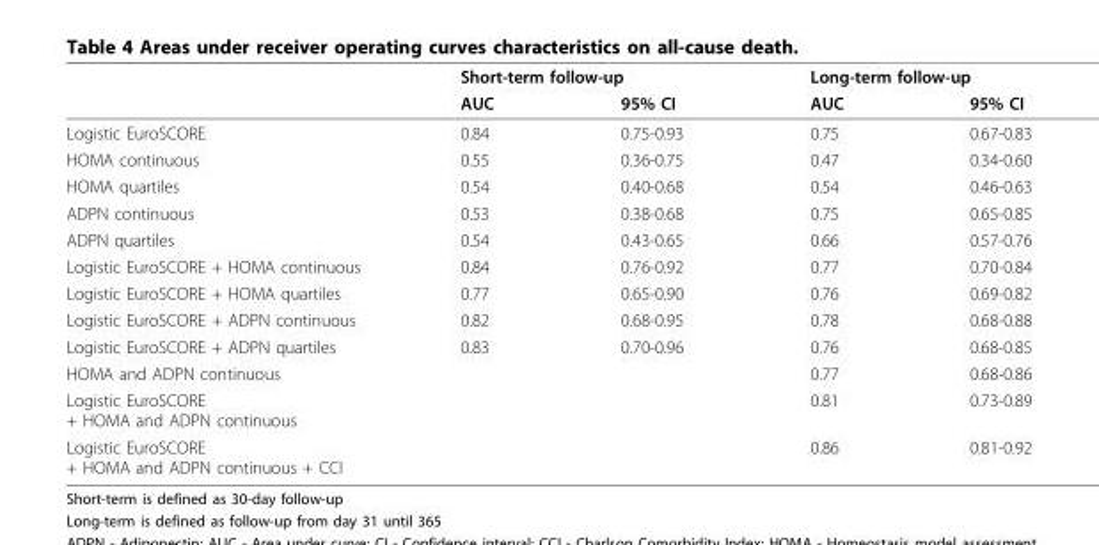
<table><thead><tr><td rowspan="2"></td><td colspan="2">Short-term follow-up</td><td colspan="2">Long-term follow-up</td></tr><tr><td>AUC</td><td>95% CI</td><td>AUC</td><td>95% CI</td></tr></thead><tbody><tr><td>Logistic EuroSCORE</td><td>0.84</td><td>0.75-0.93</td><td>0.75</td><td>0.67-0.83</td></tr><tr><td>HOMA continuous</td><td>0.55</td><td>0.36-0.75</td><td>0.47</td><td>0.34-0.60</td></tr><tr><td>HOMA quartiles</td><td>0.54</td><td>0.40-0.68</td><td>0.54</td><td>0.46-0.63</td></tr><tr><td>ADPN continuous</td><td>0.53</td><td>0.38-0.68</td><td>0.75</td><td>0.65-0.85</td></tr><tr><td>ADPN quartiles</td><td>0.54</td><td>0.43-0.65</td><td>0.66</td><td>0.57-0.76</td></tr><tr><td>Logistic EuroSCORE + HOMA continuous</td><td>0.84</td><td>0.76-0.92</td><td>0.77</td><td>0.70-0.84</td></tr><tr><td>Logistic EuroSCORE + HOMA quartiles</td><td>0.77</td><td>0.65-0.90</td><td>0.76</td><td>0.69-0.82</td></tr><tr><td>Logistic EuroSCORE + ADPN continuous</td><td>0.82</td><td>0.68-0.95</td><td>0.78</td><td>0.68-0.88</td></tr><tr><td>Logistic EuroSCORE + ADPN quartiles</td><td>0.83</td><td>0.70-0.96</td><td>0.76</td><td>0.68-0.85</td></tr><tr><td>HOMA and ADPN continuous</td><td></td><td></td><td>0.77</td><td>0.68-0.86</td></tr><tr><td>Logistic EuroSCORE + HOMA and ADPN continuous</td><td></td><td></td><td>0.81</td><td>0.73-0.89</td></tr><tr><td>Logistic EuroSCORE + HOMA and ADPN continuous + CCI</td><td></td><td></td><td>0.86</td><td>0.81-0.92</td></tr></tbody></table>